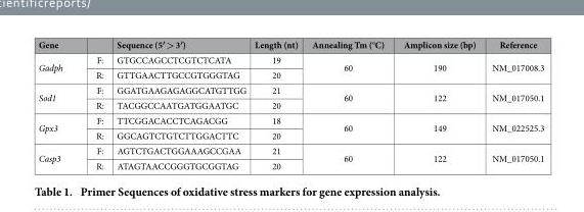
<table><thead><tr><td>Gene</td><td></td><td>Sequence (5′ &gt; 3′)</td><td>Length (nt)</td><td>Annealing Tm (°C)</td><td>Amplicon size (bp)</td><td>Reference</td></tr></thead><tbody><tr><td rowspan="2">Gadph</td><td>F:</td><td>GTGCCAGCCTCGTCTCATA</td><td>19</td><td rowspan="2">60</td><td rowspan="2">190</td><td rowspan="2">NM_017008.3</td></tr><tr><td>R:</td><td>GTTGAACTTGCCGTGGGTAG</td><td>20</td></tr><tr><td rowspan="2">Sod1</td><td>F:</td><td>GGATGAAGAGAGGCATGTTGG</td><td>21</td><td rowspan="2">60</td><td rowspan="2">122</td><td rowspan="2">NM_017050.1</td></tr><tr><td>R:</td><td>TACGGCCAATGATGGAATGC</td><td>20</td></tr><tr><td rowspan="2">Gpx3</td><td>F:</td><td>TTCGGACACCTCAGACGG</td><td>18</td><td rowspan="2">60</td><td rowspan="2">149</td><td rowspan="2">NM_022525.3</td></tr><tr><td>R:</td><td>GGCAGTCTGTCTTGGACTTC</td><td>20</td></tr><tr><td rowspan="2">Casp3</td><td>F:</td><td>AGTCTGACTGGAAAGCCGAA</td><td>21</td><td rowspan="2">60</td><td rowspan="2">122</td><td rowspan="2">NM_017050.1</td></tr><tr><td>R:</td><td>ATAGTAACCGGGTGCGGTAG</td><td>20</td></tr></tbody></table>